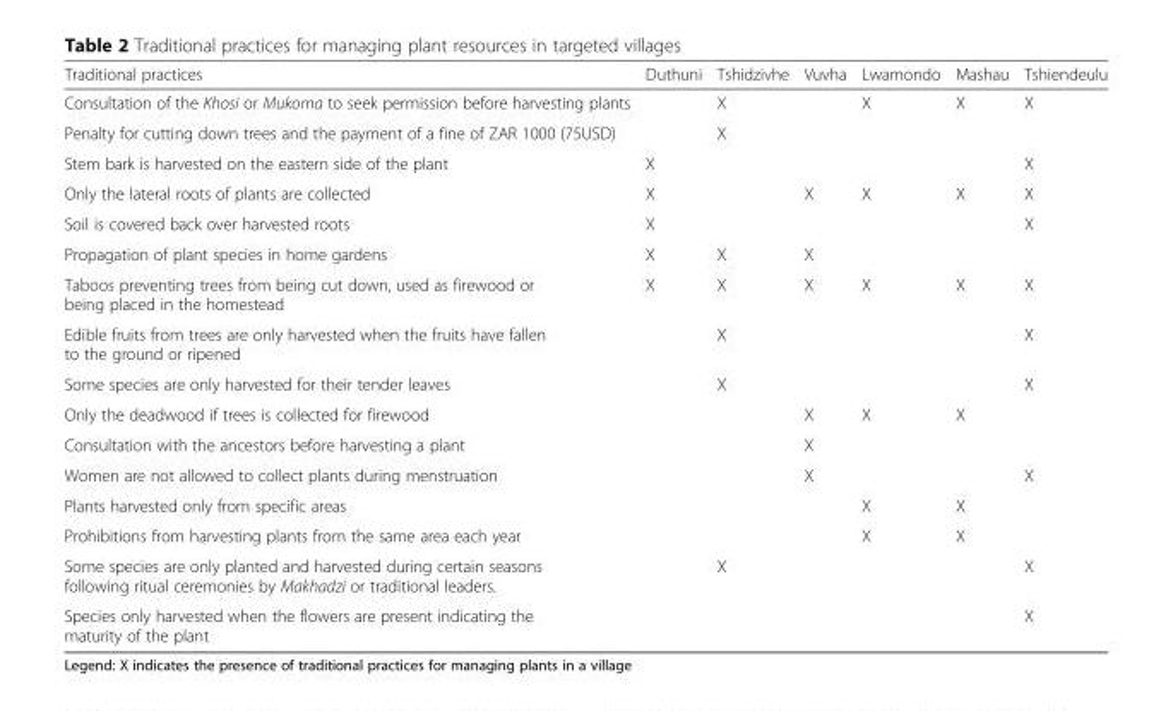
<table><thead><tr><td>Traditional practices</td><td>Duthuni</td><td>Tshidzivhe</td><td>Vuvha</td><td>Lwamondo</td><td>Mashau</td><td>Tshiendeulu</td></tr></thead><tbody><tr><td>Consultation of the Khosi or Mukoma to seek permission before harvesting plants</td><td></td><td>X</td><td></td><td>X</td><td>X</td><td>X</td></tr><tr><td>Penalty for cutting down trees and the payment of a fine of ZAR 1000 (75USD)</td><td></td><td>X</td><td></td><td></td><td></td><td></td></tr><tr><td>Stem bark is harvested on the eastern side of the plant</td><td>X</td><td></td><td></td><td></td><td></td><td>X</td></tr><tr><td>Only the lateral roots of plants are collected</td><td>X</td><td></td><td>X</td><td>X</td><td>X</td><td>X</td></tr><tr><td>Soil is covered back over harvested roots</td><td>X</td><td></td><td></td><td></td><td></td><td>X</td></tr><tr><td>Propagation of plant species in home gardens</td><td>X</td><td>X</td><td>X</td><td></td><td></td><td></td></tr><tr><td>Taboos preventing trees from being cut down, used as firewood or being placed in the homestead</td><td>X</td><td>X</td><td>X</td><td>X</td><td>X</td><td>X</td></tr><tr><td>Edible fruits from trees are only harvested when the fruits have fallen to the ground or ripened</td><td></td><td>X</td><td></td><td></td><td></td><td>X</td></tr><tr><td>Some species are only harvested for their tender leaves</td><td></td><td>X</td><td></td><td></td><td></td><td>X</td></tr><tr><td>Only the deadwood if trees is collected for firewood</td><td></td><td></td><td>X</td><td>X</td><td>X</td><td></td></tr><tr><td>Consultation with the ancestors before harvesting a plant</td><td></td><td></td><td>X</td><td></td><td></td><td></td></tr><tr><td>Women are not allowed to collect plants during menstruation</td><td></td><td></td><td>X</td><td></td><td></td><td>X</td></tr><tr><td>Plants harvested only from specific areas</td><td></td><td></td><td></td><td>X</td><td>X</td><td></td></tr><tr><td>Prohibitions from harvesting plants from the same area each year</td><td></td><td></td><td></td><td>X</td><td>X</td><td></td></tr><tr><td>Some species are only planted and harvested during certain seasons following ritual ceremonies by Makhadzi or traditional leaders.</td><td></td><td>X</td><td></td><td></td><td></td><td>X</td></tr><tr><td>Species only harvested when the flowers are present indicating the maturity of the plant</td><td></td><td></td><td></td><td></td><td></td><td>X</td></tr></tbody></table>